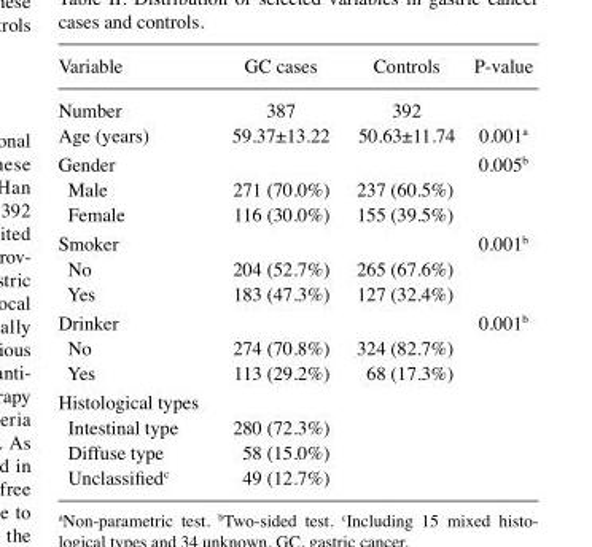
<table><thead><tr><td>Variable</td><td>GC cases</td><td>Controls</td><td>P-value</td></tr></thead><tbody><tr><td>Number</td><td>387</td><td>392</td><td></td></tr><tr><td>Age (years)</td><td>59.37±13.22</td><td>50.63±11.74</td><td>0.001<sup>a</sup></td></tr><tr><td>Gender</td><td></td><td></td><td>0.005<sup>b</sup></td></tr><tr><td>Male</td><td>271 (70.0%)</td><td>237 (60.5%)</td><td></td></tr><tr><td>Female</td><td>116 (30.0%)</td><td>155 (39.5%)</td><td></td></tr><tr><td>Smoker</td><td></td><td></td><td>0.001<sup>b</sup></td></tr><tr><td>No</td><td>204 (52.7%)</td><td>265 (67.6%)</td><td></td></tr><tr><td>Yes</td><td>183 (47.3%)</td><td>127 (32.4%)</td><td></td></tr><tr><td>Drinker</td><td></td><td></td><td>0.001<sup>b</sup></td></tr><tr><td>No</td><td>274 (70.8%)</td><td>324 (82.7%)</td><td></td></tr><tr><td>Yes</td><td>113 (29.2%)</td><td>68 (17.3%)</td><td></td></tr><tr><td colspan="4">Histological types</td></tr><tr><td>Intestinal type</td><td>280 (72.3%)</td><td></td><td></td></tr><tr><td>Diffuse type</td><td>58 (15.0%)</td><td></td><td></td></tr><tr><td>Unclassified<sup>c</sup></td><td>49 (12.7%)</td><td></td><td></td></tr></tbody></table>